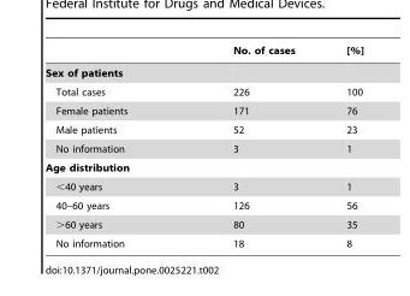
<table><thead><tr><td></td><td>No. of cases</td><td>[%]</td></tr></thead><tbody><tr><td colspan="3">Sex of patients</td></tr><tr><td>Total cases</td><td>226</td><td>100</td></tr><tr><td>Female patients</td><td>171</td><td>76</td></tr><tr><td>Male patients</td><td>52</td><td>23</td></tr><tr><td>No information</td><td>3</td><td>1</td></tr><tr><td colspan="3">Age distribution</td></tr><tr><td>&lt;40 years</td><td>3</td><td>1</td></tr><tr><td>40–60 years</td><td>126</td><td>56</td></tr><tr><td>&gt;60 years</td><td>80</td><td>35</td></tr><tr><td>No information</td><td>18</td><td>8</td></tr></tbody></table>